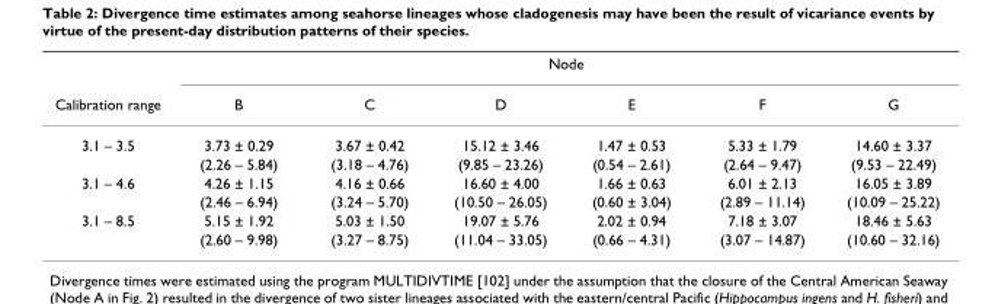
<table><thead><tr><td rowspan="2">Calibration range</td><td colspan="6">Node</td></tr><tr><td>B</td><td>C</td><td>D</td><td>E</td><td>F</td><td>G</td></tr></thead><tbody><tr><td rowspan="2">3.1 – 3.5</td><td>3.73 ± 0.29</td><td>3.67 ± 0.42</td><td>15.12 ± 3.46</td><td>1.47 ± 0.53</td><td>5.33 ± 1.79</td><td>14.60 ± 3.37</td></tr><tr><td>(2.26 – 5.84)</td><td>(3.18 – 4.76)</td><td>(9.85 – 23.26)</td><td>(0.54 – 2.61)</td><td>(2.64 – 9.47)</td><td>(9.53 – 22.49)</td></tr><tr><td rowspan="2">3.1 – 4.6</td><td>4.26 ± 1.15</td><td>4.16 ± 0.66</td><td>16.60 ± 4.00</td><td>1.66 ± 0.63</td><td>6.01 ± 2.13</td><td>16.05 ± 3.89</td></tr><tr><td>(2.46 – 6.94)</td><td>(3.24 – 5.70)</td><td>(10.50 – 26.05)</td><td>(0.60 ± 3.04)</td><td>(2.89 – 11.14)</td><td>(10.09 – 25.22)</td></tr><tr><td rowspan="2">3.1 – 8.5</td><td>5.15 ± 1.92</td><td>5.03 ± 1.50</td><td>19.07 ± 5.76</td><td>2.02 ± 0.94</td><td>7.18 ± 3.07</td><td>18.46 ± 5.63</td></tr><tr><td>(2.60 – 9.98)</td><td>(3.27 – 8.75)</td><td>(11.04 – 33.05)</td><td>(0.66 – 4.31)</td><td>(3.07 – 14.87)</td><td>(10.60 – 32.16)</td></tr></tbody></table>